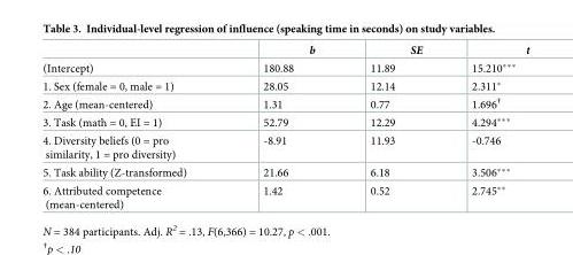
<table><thead><tr><td></td><td>b</td><td>SE</td><td>t</td></tr></thead><tbody><tr><td>(Intercept)</td><td>180.88</td><td>11.89</td><td>15.210***</td></tr><tr><td>1. Sex (female = 0, male = 1)</td><td>28.05</td><td>12.14</td><td>2.311*</td></tr><tr><td>2. Age (mean-centered)</td><td>1.31</td><td>0.77</td><td>1.696<sup>†</sup></td></tr><tr><td>3. Task (math = 0, EI = 1)</td><td>52.79</td><td>12.29</td><td>4.294***</td></tr><tr><td>4. Diversity beliefs (0 = pro similarity, 1 = pro diversity)</td><td>-8.91</td><td>11.93</td><td>-0.746</td></tr><tr><td>5. Task ability (Z-transformed)</td><td>21.66</td><td>6.18</td><td>3.506***</td></tr><tr><td>6. Attributed competence (mean-centered)</td><td>1.42</td><td>0.52</td><td>2.745**</td></tr></tbody></table>